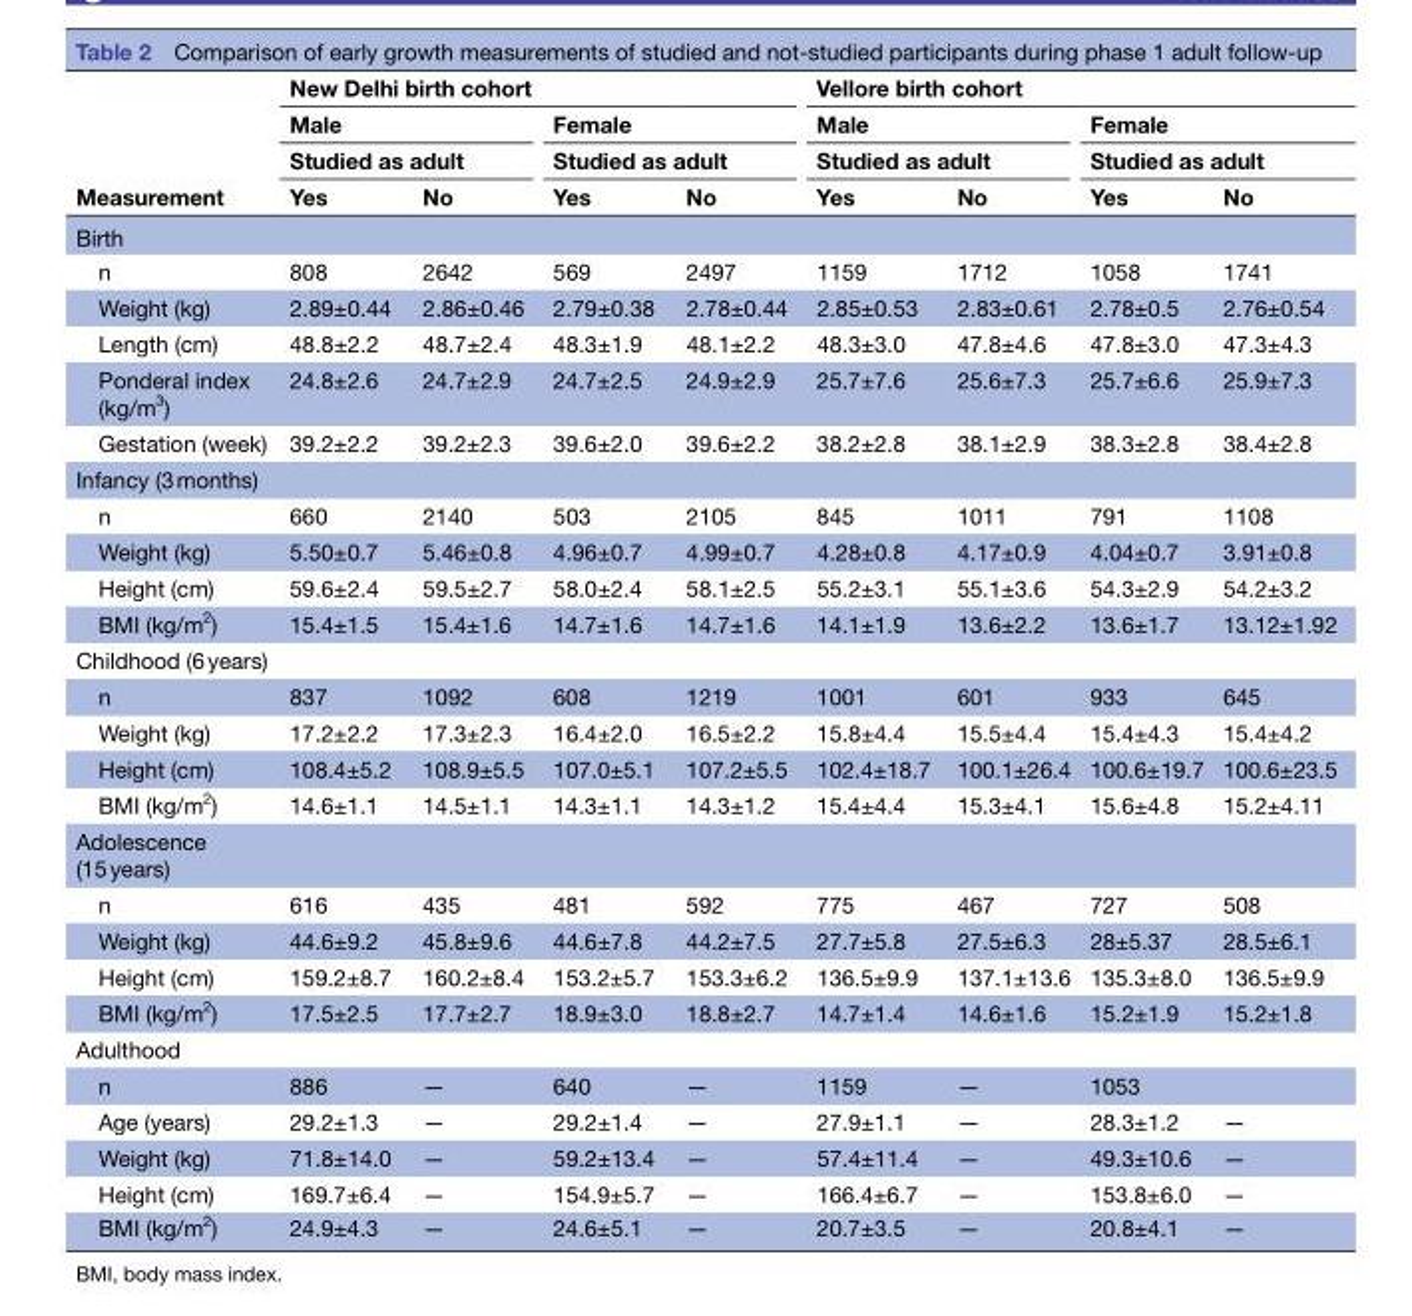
<table><thead><tr><td rowspan="4">Measurement</td><td colspan="4">New Delhi birth cohort</td><td colspan="4">Vellore birth cohort</td></tr><tr><td rowspan="2" colspan="2">Male Studied as adult</td><td rowspan="2" colspan="2">Female Studied as adult</td><td rowspan="2" colspan="2">Male Studied as adult</td><td rowspan="2" colspan="2">Female Studied as adult</td></tr><tr></tr><tr><td>Yes</td><td>No</td><td>Yes</td><td>No</td><td>Yes</td><td>No</td><td>Yes</td><td>No</td></tr></thead><tbody><tr><td colspan="9">Birth</td></tr><tr><td>n</td><td>808</td><td>2642</td><td>569</td><td>2497</td><td>1159</td><td>1712</td><td>1058</td><td>1741</td></tr><tr><td>Weight (kg)</td><td>2.89±0.44</td><td>2.86±0.46</td><td>2.79±0.38</td><td>2.78±0.44</td><td>2.85±0.53</td><td>2.83±0.61</td><td>2.78±0.5</td><td>2.76±0.54</td></tr><tr><td>Length (cm)</td><td>48.8±2.2</td><td>48.7±2.4</td><td>48.3±1.9</td><td>48.1±2.2</td><td>48.3±3.0</td><td>47.8±4.6</td><td>47.8±3.0</td><td>47.3±4.3</td></tr><tr><td>Ponderal index (kg/m<sup>3</sup>)</td><td>24.8±2.6</td><td>24.7±2.9</td><td>24.7±2.5</td><td>24.9±2.9</td><td>25.7±7.6</td><td>25.6±7.3</td><td>25.7±6.6</td><td>25.9±7.3</td></tr><tr><td>Gestation (week)</td><td>39.2±2.2</td><td>39.2±2.3</td><td>39.6±2.0</td><td>39.6±2.2</td><td>38.2±2.8</td><td>38.1±2.9</td><td>38.3±2.8</td><td>38.4±2.8</td></tr><tr><td colspan="9">Infancy (3 months)</td></tr><tr><td>n</td><td>660</td><td>2140</td><td>503</td><td>2105</td><td>845</td><td>1011</td><td>791</td><td>1108</td></tr><tr><td>Weight (kg)</td><td>5.50±0.7</td><td>5.46±0.8</td><td>4.96±0.7</td><td>4.99±0.7</td><td>4.28±0.8</td><td>4.17±0.9</td><td>4.04±0.7</td><td>3.91±0.8</td></tr><tr><td>Height (cm)</td><td>59.6±2.4</td><td>59.5±2.7</td><td>58.0±2.4</td><td>58.1±2.5</td><td>55.2±3.1</td><td>55.1±3.6</td><td>54.3±2.9</td><td>54.2±3.2</td></tr><tr><td>BMI (kg/m<sup>2</sup>)</td><td>15.4±1.5</td><td>15.4±1.6</td><td>14.7±1.6</td><td>14.7±1.6</td><td>14.1±1.9</td><td>13.6±2.2</td><td>13.6±1.7</td><td>13.12±1.92</td></tr><tr><td colspan="9">Childhood (6 years)</td></tr><tr><td>n</td><td>837</td><td>1092</td><td>608</td><td>1219</td><td>1001</td><td>601</td><td>933</td><td>645</td></tr><tr><td>Weight (kg)</td><td>17.2±2.2</td><td>17.3±2.3</td><td>16.4±2.0</td><td>16.5±2.2</td><td>15.8±4.4</td><td>15.5±4.4</td><td>15.4±4.3</td><td>15.4±4.2</td></tr><tr><td>Height (cm)</td><td>108.4±5.2</td><td>108.9±5.5</td><td>107.0±5.1</td><td>107.2±5.5</td><td>102.4±18.7</td><td>100.1±26.4</td><td>100.6±19.7</td><td>100.6±23.5</td></tr><tr><td>BMI (kg/m<sup>2</sup>)</td><td>14.6±1.1</td><td>14.5±1.1</td><td>14.3±1.1</td><td>14.3±1.2</td><td>15.4±4.4</td><td>15.3±4.1</td><td>15.6±4.8</td><td>15.2±4.11</td></tr><tr><td colspan="9">Adolescence (15 years)</td></tr><tr><td>n</td><td>616</td><td>435</td><td>481</td><td>592</td><td>775</td><td>467</td><td>727</td><td>508</td></tr><tr><td>Weight (kg)</td><td>44.6±9.2</td><td>45.8±9.6</td><td>44.6±7.8</td><td>44.2±7.5</td><td>27.7±5.8</td><td>27.5±6.3</td><td>28±5.37</td><td>28.5±6.1</td></tr><tr><td>Height (cm)</td><td>159.2±8.7</td><td>160.2±8.4</td><td>153.2±5.7</td><td>153.3±6.2</td><td>136.5±9.9</td><td>137.1±13.6</td><td>135.3±8.0</td><td>136.5±9.9</td></tr><tr><td>BMI (kg/m<sup>2</sup>)</td><td>17.5±2.5</td><td>17.7±2.7</td><td>18.9±3.0</td><td>18.8±2.7</td><td>14.7±1.4</td><td>14.6±1.6</td><td>15.2±1.9</td><td>15.2±1.8</td></tr><tr><td colspan="9">Adulthood</td></tr><tr><td>n</td><td>886</td><td>—</td><td>640</td><td>—</td><td>1159</td><td>—</td><td>1053</td><td></td></tr><tr><td>Age (years)</td><td>29.2±1.3</td><td>—</td><td>29.2±1.4</td><td>—</td><td>27.9±1.1</td><td>—</td><td>28.3±1.2</td><td>—</td></tr><tr><td>Weight (kg)</td><td>71.8±14.0</td><td>—</td><td>59.2±13.4</td><td>—</td><td>57.4±11.4</td><td>—</td><td>49.3±10.6</td><td>—</td></tr><tr><td>Height (cm)</td><td>169.7±6.4</td><td>—</td><td>154.9±5.7</td><td>—</td><td>166.4±6.7</td><td>—</td><td>153.8±6.0</td><td>—</td></tr><tr><td>BMI (kg/m<sup>2</sup>)</td><td>24.9±4.3</td><td>—</td><td>24.6±5.1</td><td>—</td><td>20.7±3.5</td><td>—</td><td>20.8±4.1</td><td>—</td></tr></tbody></table>